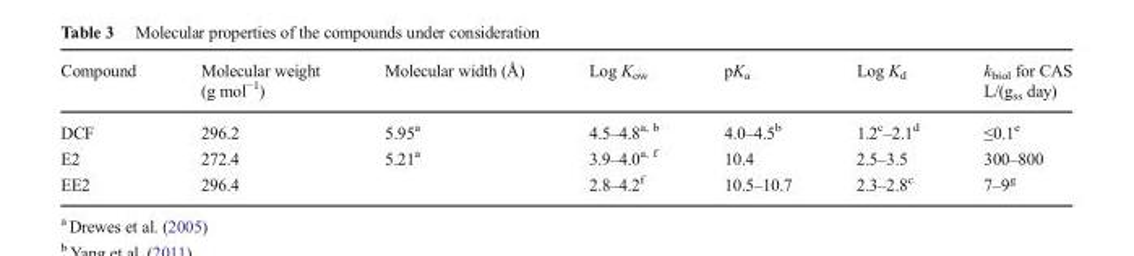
<table><thead><tr><td>Compound</td><td>Molecular weight (g mol<sup>−1</sup>)</td><td>Molecular width (Å)</td><td>Log K<sub>ow</sub></td><td>pK<sub>a</sub></td><td>Log K<sub>d</sub></td><td>k<sub>biol</sub> for CAS L/(g<sub>ss</sub> day)</td></tr></thead><tbody><tr><td>DCF</td><td>296.2</td><td>5.95<sup>a</sup></td><td>4.5–4.8<sup>a, b</sup></td><td>4.0–4.5<sup>b</sup></td><td>1.2<sup>c</sup>–2.1<sup>d</sup></td><td>≤0.1<sup>e</sup></td></tr><tr><td>E2</td><td>272.4</td><td>5.21<sup>a</sup></td><td>3.9–4.0<sup>a, f</sup></td><td>10.4</td><td>2.5–3.5</td><td>300–800</td></tr><tr><td>EE2</td><td>296.4</td><td></td><td>2.8–4.2<sup>f</sup></td><td>10.5–10.7</td><td>2.3–2.8<sup>c</sup></td><td>7–9<sup>g</sup></td></tr></tbody></table>